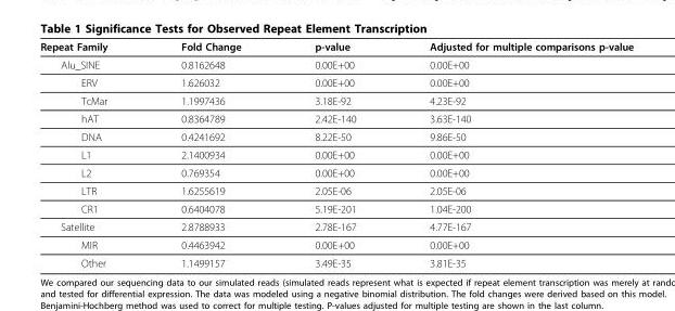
<table><thead><tr><td>Repeat Family</td><td>Fold Change</td><td>p-value</td><td>Adjusted for multiple comparisons p-value</td></tr></thead><tbody><tr><td>Alu_SINE</td><td>0.8162648</td><td>0.00E+00</td><td>0.00E+00</td></tr><tr><td>ERV</td><td>1.626032</td><td>0.00E+00</td><td>0.00E+00</td></tr><tr><td>TcMar</td><td>1.1997436</td><td>3.18E-92</td><td>4.23E-92</td></tr><tr><td>hAT</td><td>0.8364789</td><td>2.42E-140</td><td>3.63E-140</td></tr><tr><td>DNA</td><td>0.4241692</td><td>8.22E-50</td><td>9.86E-50</td></tr><tr><td>L1</td><td>2.1400934</td><td>0.00E+00</td><td>0.00E+00</td></tr><tr><td>L2</td><td>0.769354</td><td>0.00E+00</td><td>0.00E+00</td></tr><tr><td>LTR</td><td>1.6255619</td><td>2.05E-06</td><td>2.05E-06</td></tr><tr><td>CR1</td><td>0.6404078</td><td>5.19E-201</td><td>1.04E-200</td></tr><tr><td>Satellite</td><td>2.8788933</td><td>2.78E-167</td><td>4.77E-167</td></tr><tr><td>MIR</td><td>0.4463942</td><td>0.00E+00</td><td>0.00E+00</td></tr><tr><td>Other</td><td>1.1499157</td><td>3.49E-35</td><td>3.81E-35</td></tr></tbody></table>